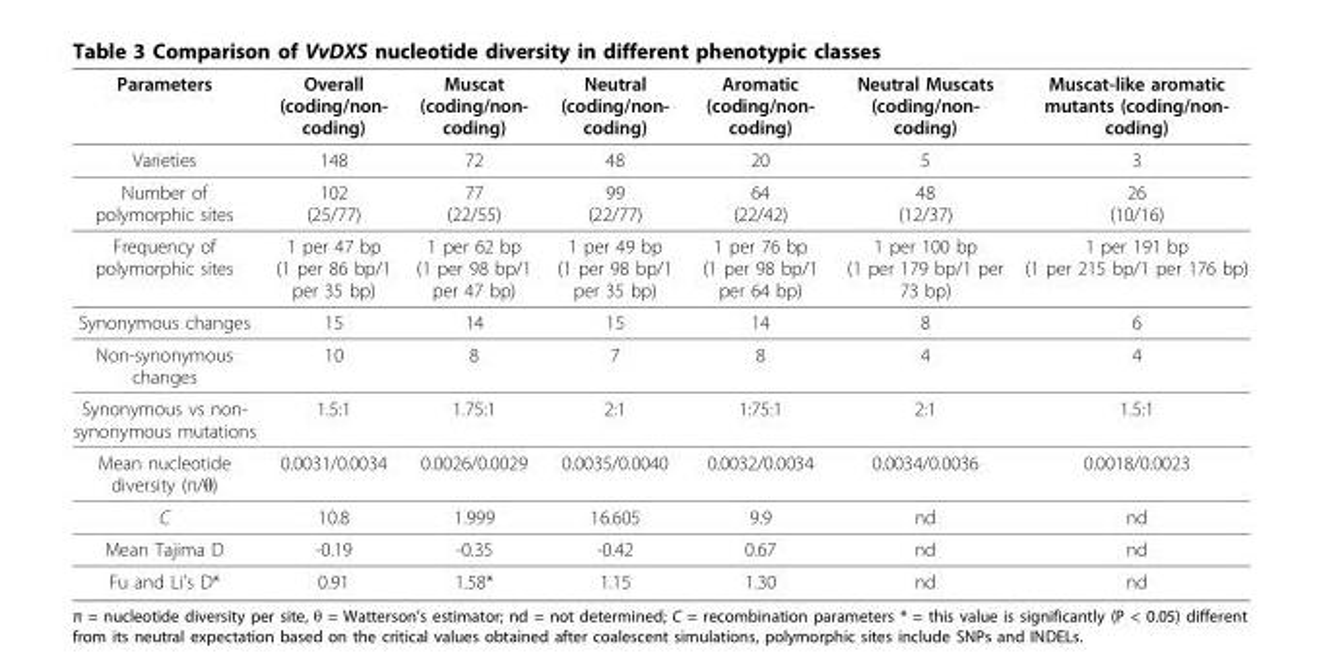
<table><thead><tr><td>Parameters</td><td>Overall (coding/non- coding)</td><td>Muscat (coding/non- coding)</td><td>Neutral (coding/non- coding)</td><td>Aromatic (coding/non- coding)</td><td>Neutral Muscats (coding/non- coding)</td><td>Muscat-like aromatic mutants (coding/non- coding)</td></tr></thead><tbody><tr><td>Varieties</td><td>148</td><td>72</td><td>48</td><td>20</td><td>5</td><td>3</td></tr><tr><td>Number of polymorphic sites</td><td>102 (25/77)</td><td>77 (22/55)</td><td>99 (22/77)</td><td>64 (22/42)</td><td>48 (12/37)</td><td>26 (10/16)</td></tr><tr><td>Frequency of polymorphic sites</td><td>1 per 47 bp (1 per 86 bp/1 per 35 bp)</td><td>1 per 62 bp (1 per 98 bp/1 per 47 bp)</td><td>1 per 49 bp (1 per 98 bp/1 per 35 bp)</td><td>1 per 76 bp (1 per 98 bp/1 per 64 bp)</td><td>1 per 100 bp (1 per 179 bp/1 per 73 bp)</td><td>1 per 191 bp (1 per 215 bp/1 per 176 bp)</td></tr><tr><td>Synonymous changes</td><td>15</td><td>14</td><td>15</td><td>14</td><td>8</td><td>6</td></tr><tr><td>Non-synonymous changes</td><td>10</td><td>8</td><td>7</td><td>8</td><td>4</td><td>4</td></tr><tr><td>Synonymous vs non- synonymous mutations</td><td>1.5:1</td><td>1.75:1</td><td>2:1</td><td>1:75:1</td><td>2:1</td><td>1.5:1</td></tr><tr><td>Mean nucleotide diversity (π/θ)</td><td>0.0031/0.0034</td><td>0.0026/0.0029</td><td>0.0035/0.0040</td><td>0.0032/0.0034</td><td>0.0034/0.0036</td><td>0.0018/0.0023</td></tr><tr><td>C</td><td>10.8</td><td>1.999</td><td>16.605</td><td>9.9</td><td>nd</td><td>nd</td></tr><tr><td>Mean Tajima D</td><td>-0.19</td><td>-0.35</td><td>-0.42</td><td>0.67</td><td>nd</td><td>nd</td></tr><tr><td>Fu and Li’s D*</td><td>0.91</td><td>1.58*</td><td>1.15</td><td>1.30</td><td>nd</td><td>nd</td></tr></tbody></table>